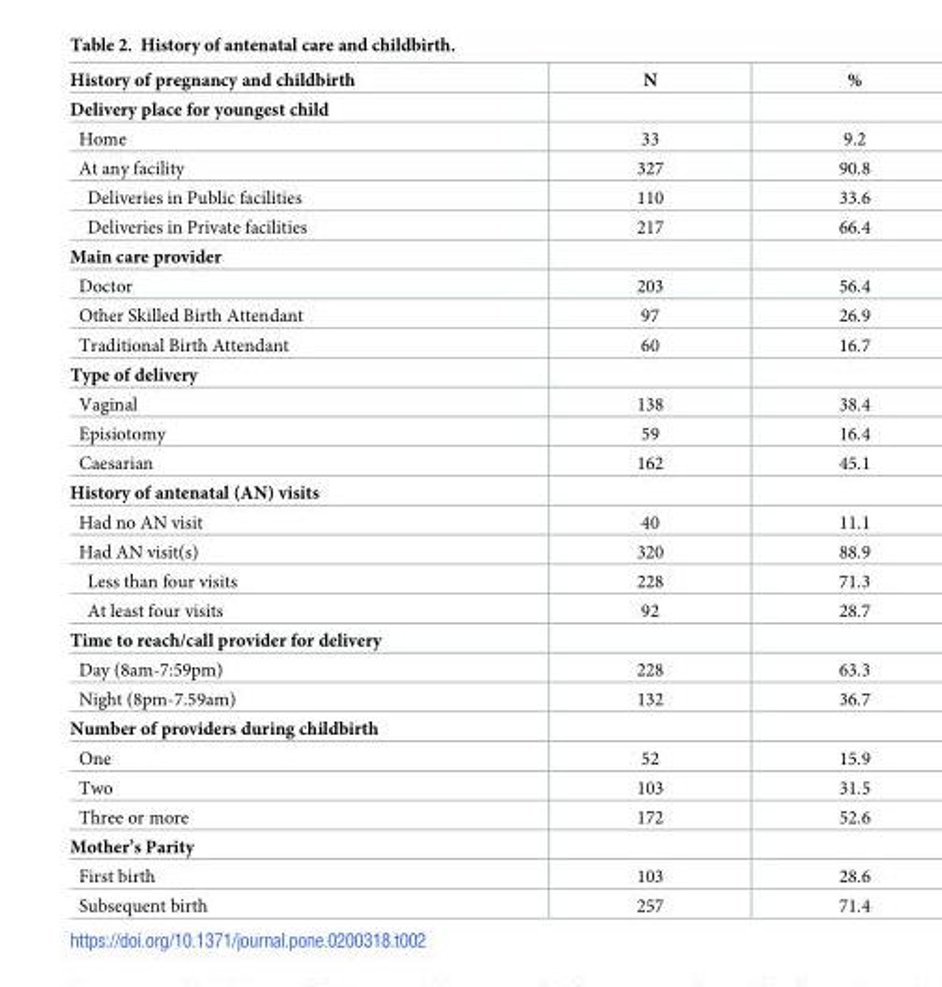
<table><thead><tr><td>History of pregnancy and childbirth</td><td>N</td><td>%</td></tr></thead><tbody><tr><td colspan="3">Delivery place for youngest child</td></tr><tr><td>Home</td><td>33</td><td>9.2</td></tr><tr><td>At any facility</td><td>327</td><td>90.8</td></tr><tr><td>Deliveries in Public facilities</td><td>110</td><td>33.6</td></tr><tr><td>Deliveries in Private facilities</td><td>217</td><td>66.4</td></tr><tr><td colspan="3">Main care provider</td></tr><tr><td>Doctor</td><td>203</td><td>56.4</td></tr><tr><td>Other Skilled Birth Attendant</td><td>97</td><td>26.9</td></tr><tr><td>Traditional Birth Attendant</td><td>60</td><td>16.7</td></tr><tr><td colspan="3">Type of delivery</td></tr><tr><td>Vaginal</td><td>138</td><td>38.4</td></tr><tr><td>Episiotomy</td><td>59</td><td>16.4</td></tr><tr><td>Caesarian</td><td>162</td><td>45.1</td></tr><tr><td colspan="3">History of antenatal (AN) visits</td></tr><tr><td>Had no AN visit</td><td>40</td><td>11.1</td></tr><tr><td>Had AN visit(s)</td><td>320</td><td>88.9</td></tr><tr><td>Less than four visits</td><td>228</td><td>71.3</td></tr><tr><td>At least four visits</td><td>92</td><td>28.7</td></tr><tr><td colspan="3">Time to reach/call provider for delivery</td></tr><tr><td>Day (8am-7:59pm)</td><td>228</td><td>63.3</td></tr><tr><td>Night (8pm-7.59am)</td><td>132</td><td>36.7</td></tr><tr><td colspan="3">Number of providers during childbirth</td></tr><tr><td>One</td><td>52</td><td>15.9</td></tr><tr><td>Two</td><td>103</td><td>31.5</td></tr><tr><td>Three or more</td><td>172</td><td>52.6</td></tr><tr><td colspan="3">Mother’s Parity</td></tr><tr><td>First birth</td><td>103</td><td>28.6</td></tr><tr><td>Subsequent birth</td><td>257</td><td>71.4</td></tr></tbody></table>